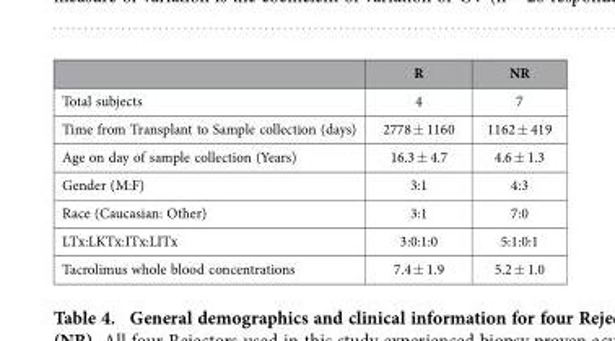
<table><thead><tr><td></td><td>R</td><td>NR</td></tr></thead><tbody><tr><td>Total subjects</td><td>4</td><td>7</td></tr><tr><td>Time from Transplant to Sample collection (days)</td><td>2778 ± 1160</td><td>1162 ± 419</td></tr><tr><td>Age on day of sample collection (Years)</td><td>16.3 ± 4.7</td><td>4.6 ± 1.3</td></tr><tr><td>Gender (M:F)</td><td>3:1</td><td>4:3</td></tr><tr><td>Race (Caucasian: Other)</td><td>3:1</td><td>7:0</td></tr><tr><td>LTx:LKTx:ITx:LITx</td><td>3:0:1:0</td><td>5:1:0:1</td></tr><tr><td>Tacrolimus whole blood concentrations</td><td>7.4 ± 1.9</td><td>5.2 ± 1.0</td></tr></tbody></table>